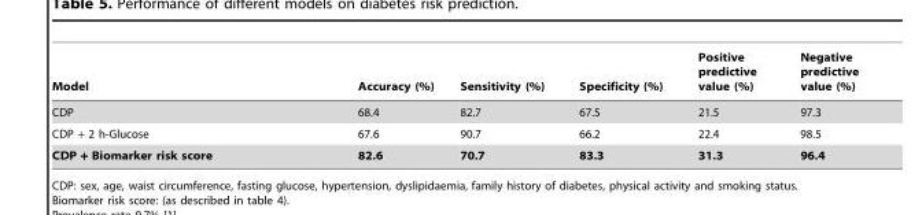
<table><thead><tr><td>Model</td><td>Accuracy (%)</td><td>Sensitivity (%)</td><td>Specificity (%)</td><td>Positive predictive value (%)</td><td>Negative predictive value (%)</td></tr></thead><tbody><tr><td>CDP</td><td>68.4</td><td>82.7</td><td>67.5</td><td>21.5</td><td>97.3</td></tr><tr><td>CDP + 2 h-Glucose</td><td>67.6</td><td>90.7</td><td>66.2</td><td>22.4</td><td>98.5</td></tr><tr><td>CDP + Biomarker risk score</td><td>82.6</td><td>70.7</td><td>83.3</td><td>31.3</td><td>96.4</td></tr></tbody></table>